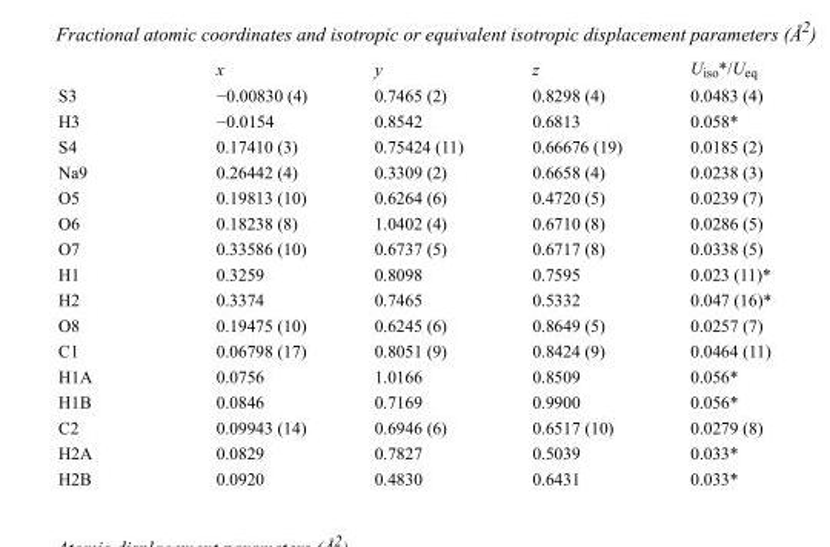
<table><thead><tr><td></td><td>x</td><td>y</td><td>z</td><td>U<sub>iso</sub>*/U<sub>eq</sub></td></tr></thead><tbody><tr><td>S3</td><td>−0.00830 (4)</td><td>0.7465 (2)</td><td>0.8298 (4)</td><td>0.0483 (4)</td></tr><tr><td>H3</td><td>−0.0154</td><td>0.8542</td><td>0.6813</td><td>0.058*</td></tr><tr><td>S4</td><td>0.17410 (3)</td><td>0.75424 (11)</td><td>0.66676 (19)</td><td>0.0185 (2)</td></tr><tr><td>Na9</td><td>0.26442 (4)</td><td>0.3309 (2)</td><td>0.6658 (4)</td><td>0.0238 (3)</td></tr><tr><td>O5</td><td>0.19813 (10)</td><td>0.6264 (6)</td><td>0.4720 (5)</td><td>0.0239 (7)</td></tr><tr><td>O6</td><td>0.18238 (8)</td><td>1.0402 (4)</td><td>0.6710 (8)</td><td>0.0286 (5)</td></tr><tr><td>O7</td><td>0.33586 (10)</td><td>0.6737 (5)</td><td>0.6717 (8)</td><td>0.0338 (5)</td></tr><tr><td>H1</td><td>0.3259</td><td>0.8098</td><td>0.7595</td><td>0.023 (11)*</td></tr><tr><td>H2</td><td>0.3374</td><td>0.7465</td><td>0.5332</td><td>0.047 (16)*</td></tr><tr><td>O8</td><td>0.19475 (10)</td><td>0.6245 (6)</td><td>0.8649 (5)</td><td>0.0257 (7)</td></tr><tr><td>C1</td><td>0.06798 (17)</td><td>0.8051 (9)</td><td>0.8424 (9)</td><td>0.0464 (11)</td></tr><tr><td>H1A</td><td>0.0756</td><td>1.0166</td><td>0.8509</td><td>0.056*</td></tr><tr><td>H1B</td><td>0.0846</td><td>0.7169</td><td>0.9900</td><td>0.056*</td></tr><tr><td>C2</td><td>0.09943 (14)</td><td>0.6946 (6)</td><td>0.6517 (10)</td><td>0.0279 (8)</td></tr><tr><td>H2A</td><td>0.0829</td><td>0.7827</td><td>0.5039</td><td>0.033*</td></tr><tr><td>H2B</td><td>0.0920</td><td>0.4830</td><td>0.6431</td><td>0.033*</td></tr></tbody></table>